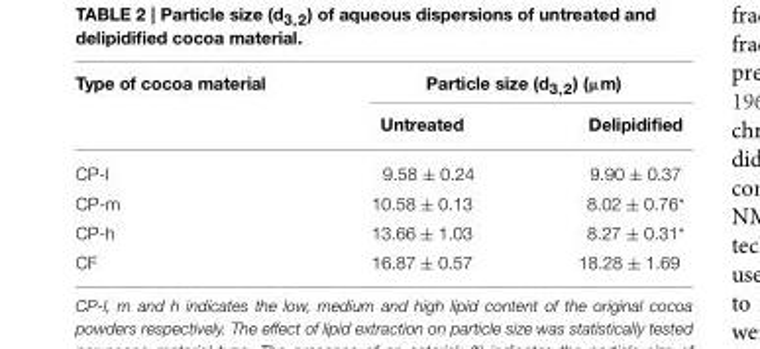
<table><thead><tr><td rowspan="2">Type of cocoa material</td><td colspan="2">Particle size (d<sub>3,2</sub>) (µm)</td></tr><tr><td>Untreated</td><td>Delipidified</td></tr></thead><tbody><tr><td>CP-l</td><td>9.58 ± 0.24</td><td>9.90 ± 0.37</td></tr><tr><td>CP-m</td><td>10.58 ± 0.13</td><td>8.02 ± 0.76*</td></tr><tr><td>CP-h</td><td>13.66 ± 1.03</td><td>8.27 ± 0.31*</td></tr><tr><td>CF</td><td>16.87 ± 0.57</td><td>18.28 ± 1.69</td></tr></tbody></table>